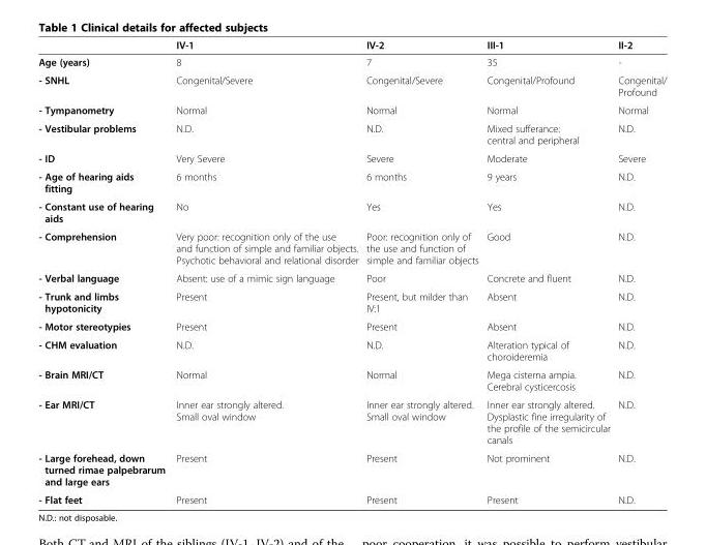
<table><thead><tr><td></td><td>IV-1</td><td>IV-2</td><td>III-1</td><td>II-2</td></tr></thead><tbody><tr><td>Age (years)</td><td>8</td><td>7</td><td>35</td><td>-</td></tr><tr><td>- SNHL</td><td>Congenital/Severe</td><td>Congenital/Severe</td><td>Congenital/Profound</td><td>Congenital/ Profound</td></tr><tr><td>- Tympanometry</td><td>Normal</td><td>Normal</td><td>Normal</td><td>Normal</td></tr><tr><td>- Vestibular problems</td><td>N.D.</td><td>N.D.</td><td>Mixed sufferance: central and peripheral</td><td>N.D.</td></tr><tr><td>- ID</td><td>Very Severe</td><td>Severe</td><td>Moderate</td><td>Severe</td></tr><tr><td>- Age of hearing aids fitting</td><td>6 months</td><td>6 months</td><td>9 years</td><td>N.D.</td></tr><tr><td>- Constant use of hearing aids</td><td>No</td><td>Yes</td><td>Yes</td><td>N.D.</td></tr><tr><td>- Comprehension</td><td>Very poor: recognition only of the use and function of simple and familiar objects. Psychotic behavioral and relational disorder</td><td>Poor: recognition only of the use and function of simple and familiar objects</td><td>Good</td><td>N.D.</td></tr><tr><td>- Verbal language</td><td>Absent: use of a mimic sign language</td><td>Poor</td><td>Concrete and fluent</td><td>N.D.</td></tr><tr><td>- Trunk and limbs hypotonicity</td><td>Present</td><td>Present, but milder than IV:1</td><td>Absent</td><td>N.D.</td></tr><tr><td>- Motor stereotypies</td><td>Present</td><td>Present</td><td>Absent</td><td>N.D.</td></tr><tr><td>- CHM evaluation</td><td>N.D.</td><td>N.D.</td><td>Alteration typical of choroideremia</td><td>N.D.</td></tr><tr><td>- Brain MRI/CT</td><td>Normal</td><td>Normal</td><td>Mega cisterna ampia. Cerebral cysticercosis</td><td>N.D.</td></tr><tr><td>- Ear MRI/CT</td><td>Inner ear strongly altered. Small oval window</td><td>Inner ear strongly altered. Small oval window</td><td>Inner ear strongly altered. Dysplastic fine irregularity of the profile of the semicircular canals</td><td>N.D.</td></tr><tr><td>- Large forehead, down turned rimae palpebrarum and large ears</td><td>Present</td><td>Present</td><td>Not prominent</td><td>N.D.</td></tr><tr><td>- Flat feet</td><td>Present</td><td>Present</td><td>Present</td><td>N.D.</td></tr></tbody></table>